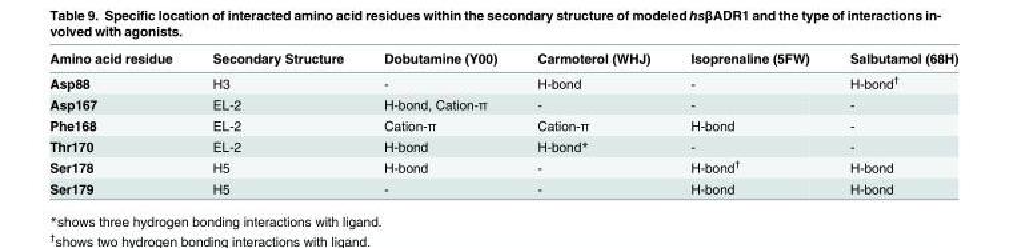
<table><thead><tr><td>Amino acid residue</td><td>Secondary Structure</td><td>Dobutamine (Y00)</td><td>Carmoterol (WHJ)</td><td>Isoprenaline (5FW)</td><td>Salbutamol (68H)</td></tr></thead><tbody><tr><td>Asp88</td><td>H3</td><td>-</td><td>H-bond</td><td>-</td><td>H-bond<sup>†</sup></td></tr><tr><td>Asp167</td><td>EL-2</td><td>H-bond, Cation-π</td><td>-</td><td>-</td><td>-</td></tr><tr><td>Phe168</td><td>EL-2</td><td>Cation-π</td><td>Cation-π</td><td>H-bond</td><td>-</td></tr><tr><td>Thr170</td><td>EL-2</td><td>H-bond</td><td>H-bond*</td><td>-</td><td>-</td></tr><tr><td>Ser178</td><td>H5</td><td>H-bond</td><td>-</td><td>H-bond<sup>†</sup></td><td>H-bond</td></tr><tr><td>Ser179</td><td>H5</td><td>-</td><td>-</td><td>H-bond</td><td>H-bond</td></tr></tbody></table>